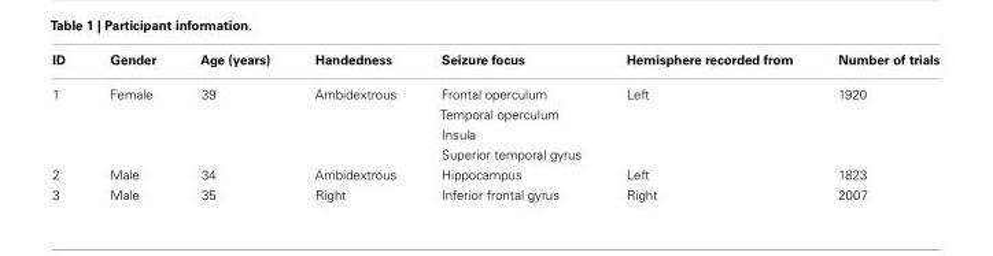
<table><thead><tr><td>ID</td><td>Gender</td><td>Age (years)</td><td>Handedness</td><td>Seizure focus</td><td>Hemisphere recorded from</td><td>Number of trials</td></tr></thead><tbody><tr><td>1</td><td>Female</td><td>39</td><td>Ambidextrous</td><td>Frontal operculum Temporal operculum Insula Superior temporal gyrus</td><td>Left</td><td>1920</td></tr><tr><td>2</td><td>Male</td><td>34</td><td>Ambidextrous</td><td>Hippocampus</td><td>Left</td><td>1823</td></tr><tr><td>3</td><td>Male</td><td>35</td><td>Right</td><td>Inferior frontal gyrus</td><td>Right</td><td>2007</td></tr></tbody></table>